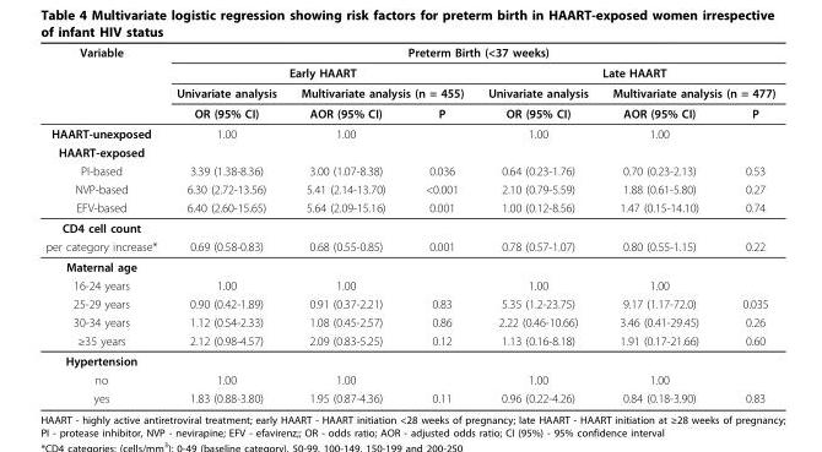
<table><thead><tr><td rowspan="4">Variable</td><td colspan="6">Preterm Birth (&lt;37 weeks)</td></tr><tr><td colspan="3">Early HAART</td><td colspan="3">Late HAART</td></tr><tr><td rowspan="2">Univariate analysis OR (95% CI)</td><td colspan="2">Multivariate analysis (n = 455)</td><td rowspan="2">Univariate analysis OR (95% CI)</td><td colspan="2">Multivariate analysis (n = 477)</td></tr><tr><td>AOR (95% CI)</td><td>P</td><td>AOR (95% CI)</td><td>P</td></tr></thead><tbody><tr><td>HAART-unexposed</td><td>1.00</td><td>1.00</td><td></td><td>1.00</td><td>1.00</td><td></td></tr><tr><td colspan="7">HAART-exposed</td></tr><tr><td>PI-based</td><td>3.39 (1.38-8.36)</td><td>3.00 (1.07-8.38)</td><td>0.036</td><td>0.64 (0.23-1.76)</td><td>0.70 (0.23-2.13)</td><td>0.53</td></tr><tr><td>NVP-based</td><td>6.30 (2.72-13.56)</td><td>5.41 (2.14-13.70)</td><td>&lt;0.001</td><td>2.10 (0.79-5.59)</td><td>1.88 (0.61-5.80)</td><td>0.27</td></tr><tr><td>EFV-based</td><td>6.40 (2.60-15.65)</td><td>5.64 (2.09-15.16)</td><td>0.001</td><td>1.00 (0.12-8.56)</td><td>1.47 (0.15-14.10)</td><td>0.74</td></tr><tr><td colspan="7">CD4 cell count</td></tr><tr><td>per category increase*</td><td>0.69 (0.58-0.83)</td><td>0.68 (0.55-0.85)</td><td>0.001</td><td>0.78 (0.57-1.07)</td><td>0.80 (0.55-1.15)</td><td>0.22</td></tr><tr><td colspan="7">Maternal age</td></tr><tr><td>16-24 years</td><td>1.00</td><td>1.00</td><td></td><td>1.00</td><td>1.00</td><td></td></tr><tr><td>25-29 years</td><td>0.90 (0.42-1.89)</td><td>0.91 (0.37-2.21)</td><td>0.83</td><td>5.35 (1.2-23.75)</td><td>9.17 (1.17-72.0)</td><td>0.035</td></tr><tr><td>30-34 years</td><td>1.12 (0.54-2.33)</td><td>1.08 (0.45-2.57)</td><td>0.86</td><td>2.22 (0.46-10.66)</td><td>3.46 (0.41-29.45)</td><td>0.26</td></tr><tr><td>≥35 years</td><td>2.12 (0.98-4.57)</td><td>2.09 (0.83-5.25)</td><td>0.12</td><td>1.13 (0.16-8.18)</td><td>1.91 (0.17-21.66)</td><td>0.60</td></tr><tr><td colspan="7">Hypertension</td></tr><tr><td>no</td><td>1.00</td><td>1.00</td><td></td><td>1.00</td><td>1.00</td><td></td></tr><tr><td>yes</td><td>1.83 (0.88-3.80)</td><td>1.95 (0.87-4.36)</td><td>0.11</td><td>0.96 (0.22-4.26)</td><td>0.84 (0.18-3.90)</td><td>0.83</td></tr></tbody></table>